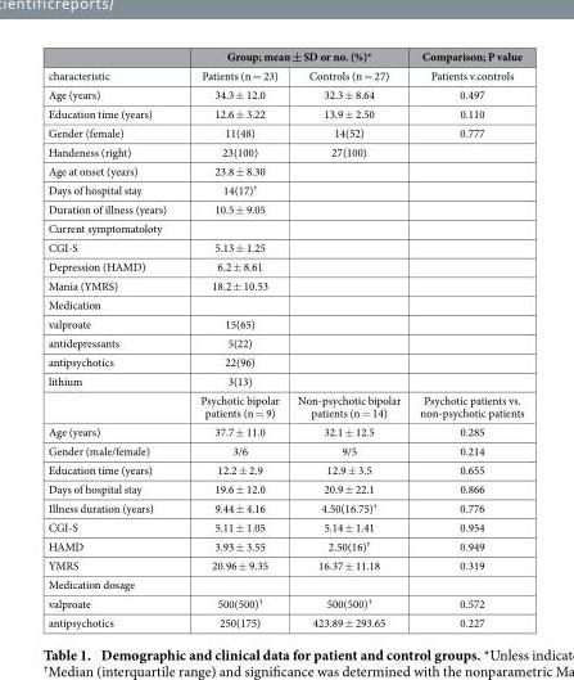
<table><thead><tr><td rowspan="2">characteristic</td><td colspan="2">Group; mean ± SD or no. (%)*</td><td rowspan="2">Comparison; P value Patients v.controls</td></tr><tr><td>Patients (n = 23)</td><td>Controls (n = 27)</td></tr></thead><tbody><tr><td>Age (years)</td><td>34.3 ± 12.0</td><td>32.3 ± 8.64</td><td>0.497</td></tr><tr><td>Education time (years)</td><td>12.6 ± 3.22</td><td>13.9 ± 2.50</td><td>0.110</td></tr><tr><td>Gender (female)</td><td>11(48)</td><td>14(52)</td><td>0.777</td></tr><tr><td>Handeness (right)</td><td>23(100)</td><td>27(100)</td><td></td></tr><tr><td>Age at onset (years)</td><td>23.8 ± 8.30</td><td></td><td></td></tr><tr><td>Days of hospital stay</td><td>14(17)†</td><td></td><td></td></tr><tr><td>Duration of illness (years)</td><td>10.5 ± 9.05</td><td></td><td></td></tr><tr><td colspan="4">Current symptomatoloty</td></tr><tr><td>CGI-S</td><td>5.13 ± 1.25</td><td></td><td></td></tr><tr><td>Depression (HAMD)</td><td>6.2 ± 8.61</td><td></td><td></td></tr><tr><td>Mania (YMRS)</td><td>18.2 ± 10.53</td><td></td><td></td></tr><tr><td colspan="4">Medication</td></tr><tr><td>valproate</td><td>15(65)</td><td></td><td></td></tr><tr><td>antidepressants</td><td>5(22)</td><td></td><td></td></tr><tr><td>antipsychotics</td><td>22(96)</td><td></td><td></td></tr><tr><td rowspan="2">lithium</td><td>3(13)</td><td></td><td></td></tr><tr><td>Psychotic bipolar patients (n = 9)</td><td>Non-psychotic bipolar patients (n = 14)</td><td>Psychotic patients vs. non-psychotic patients</td></tr><tr><td>Age (years)</td><td>37.7 ± 11.0</td><td>32.1 ± 12.5</td><td>0.285</td></tr><tr><td>Gender (male/female)</td><td>3/6</td><td>9/5</td><td>0.214</td></tr><tr><td>Education time (years)</td><td>12.2 ± 2.9</td><td>12.9 ± 3.5</td><td>0.655</td></tr><tr><td>Days of hospital stay</td><td>19.6 ± 12.0</td><td>20.9 ± 22.1</td><td>0.866</td></tr><tr><td>Illness duration (years)</td><td>9.44 ± 4.16</td><td>4.50(16.75)†</td><td>0.776</td></tr><tr><td>CGI-S</td><td>5.11 ± 1.05</td><td>5.14 ± 1.41</td><td>0.954</td></tr><tr><td>HAMD</td><td>3.93 ± 3.55</td><td>2.50(16)†</td><td>0.949</td></tr><tr><td>YMRS</td><td>20.96 ± 9.35</td><td>16.37 ± 11.18</td><td>0.319</td></tr><tr><td colspan="4">Medication dosage</td></tr><tr><td>valproate</td><td>500(500)†</td><td>500(500)†</td><td>0.572</td></tr><tr><td>antipsychotics</td><td>250(175)</td><td>423.89 ± 293.65</td><td>0.227</td></tr></tbody></table>